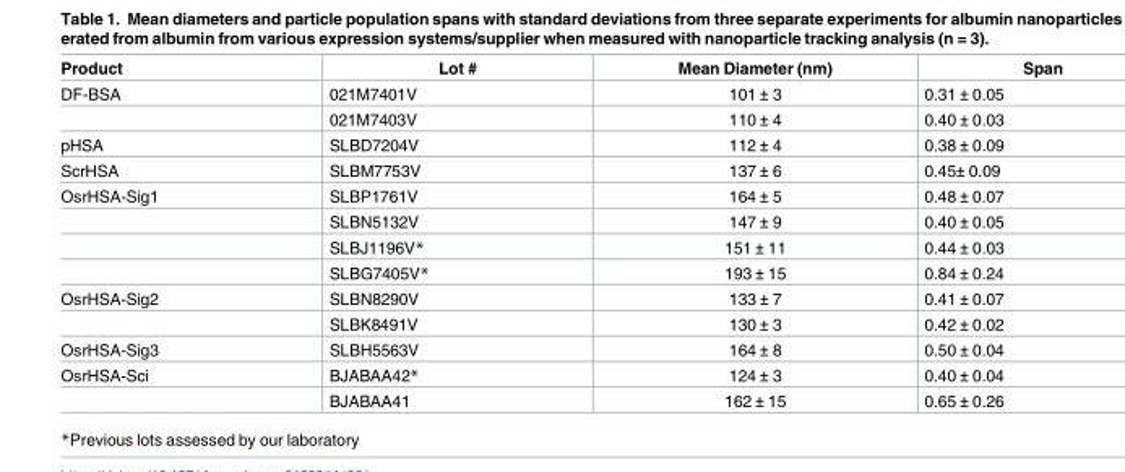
<table><thead><tr><td>Product</td><td>Lot #</td><td>Mean Diameter (nm)</td><td>Span</td></tr></thead><tbody><tr><td rowspan="2">DF-BSA</td><td>021M7401V</td><td>101 ± 3</td><td>0.31 ± 0.05</td></tr><tr><td>021M7403V</td><td>110 ± 4</td><td>0.40 ± 0.03</td></tr><tr><td>pHSA</td><td>SLBD7204V</td><td>112 ± 4</td><td>0.38 ± 0.09</td></tr><tr><td>ScrHSA</td><td>SLBM7753V</td><td>137 ± 6</td><td>0.45± 0.09</td></tr><tr><td rowspan="4">OsrHSA-Sig1</td><td>SLBP1761V</td><td>164 ± 5</td><td>0.48 ± 0.07</td></tr><tr><td>SLBN5132V</td><td>147 ± 9</td><td>0.40 ± 0.05</td></tr><tr><td>SLBJ1196V*</td><td>151 ± 11</td><td>0.44 ± 0.03</td></tr><tr><td>SLBG7405V*</td><td>193 ± 15</td><td>0.84 ± 0.24</td></tr><tr><td rowspan="2">OsrHSA-Sig2</td><td>SLBN8290V</td><td>133 ± 7</td><td>0.41 ± 0.07</td></tr><tr><td>SLBK8491V</td><td>130 ± 3</td><td>0.42 ± 0.02</td></tr><tr><td>OsrHSA-Sig3</td><td>SLBH5563V</td><td>164 ± 8</td><td>0.50 ± 0.04</td></tr><tr><td rowspan="2">OsrHSA-Sci</td><td>BJABAA42*</td><td>124 ± 3</td><td>0.40 ± 0.04</td></tr><tr><td>BJABAA41</td><td>162 ± 15</td><td>0.65 ± 0.26</td></tr></tbody></table>